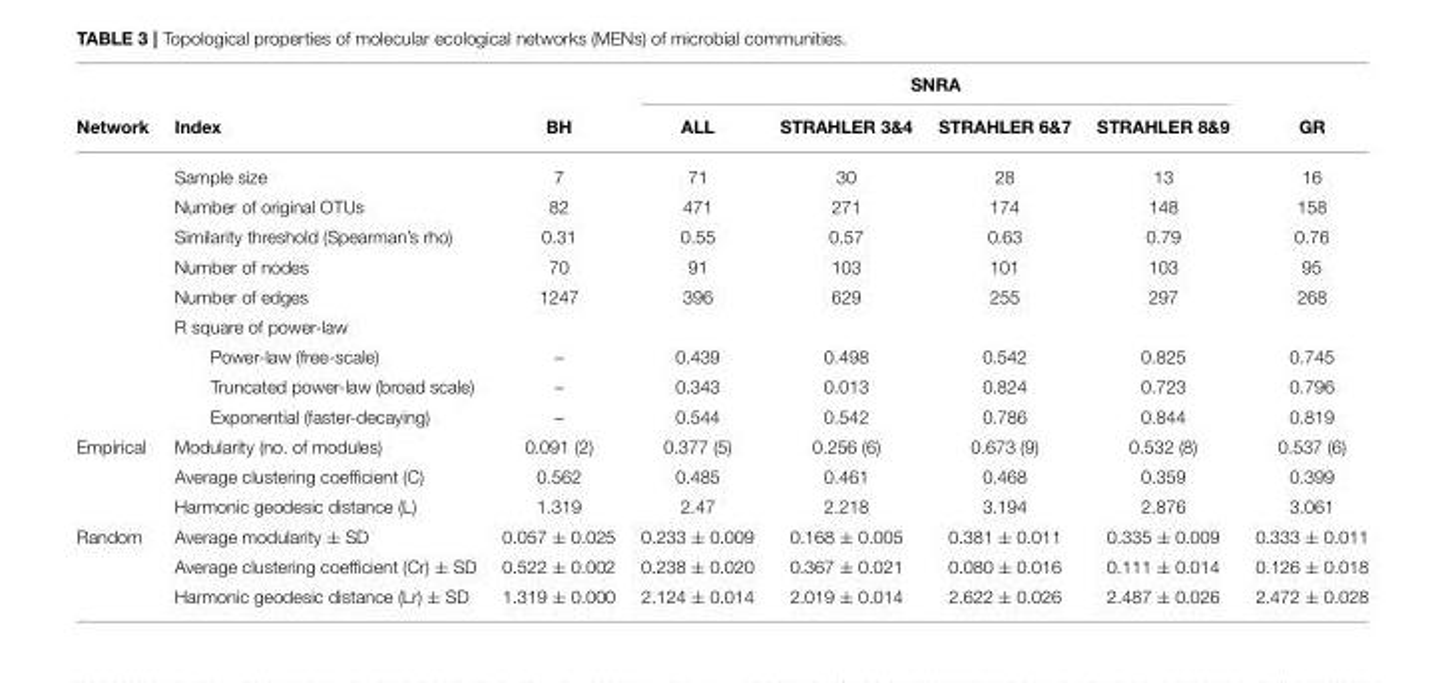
<table><thead><tr><td rowspan="2">Network</td><td rowspan="2">Index</td><td rowspan="2">BH</td><td colspan="4">SNRA</td><td rowspan="2">GR</td></tr><tr><td>ALL</td><td>STRAHLER 3&amp;4</td><td>STRAHLER 6&amp;7</td><td>STRAHLER 8&amp;9</td></tr></thead><tbody><tr><td></td><td>Sample size</td><td>7</td><td>71</td><td>30</td><td>28</td><td>13</td><td>16</td></tr><tr><td></td><td>Number of original OTUs</td><td>82</td><td>471</td><td>271</td><td>174</td><td>148</td><td>158</td></tr><tr><td></td><td>Similarity threshold (Spearman’s rho)</td><td>0.31</td><td>0.55</td><td>0.57</td><td>0.63</td><td>0.79</td><td>0.76</td></tr><tr><td></td><td>Number of nodes</td><td>70</td><td>91</td><td>103</td><td>101</td><td>103</td><td>95</td></tr><tr><td></td><td>Number of edges</td><td>1247</td><td>396</td><td>629</td><td>255</td><td>297</td><td>268</td></tr><tr><td></td><td>R square of power-law</td><td></td><td></td><td></td><td></td><td></td><td></td></tr><tr><td></td><td>Power-law (free-scale)</td><td>–</td><td>0.439</td><td>0.498</td><td>0.542</td><td>0.825</td><td>0.745</td></tr><tr><td></td><td>Truncated power-law (broad scale)</td><td>–</td><td>0.343</td><td>0.013</td><td>0.824</td><td>0.723</td><td>0.796</td></tr><tr><td></td><td>Exponential (faster-decaying)</td><td>–</td><td>0.544</td><td>0.542</td><td>0.786</td><td>0.844</td><td>0.819</td></tr><tr><td rowspan="3">Empirical</td><td>Modularity (no. of modules)</td><td>0.091 (2)</td><td>0.377 (5)</td><td>0.256 (6)</td><td>0.673 (9)</td><td>0.532 (8)</td><td>0.537 (6)</td></tr><tr><td>Average clustering coefficient (C)</td><td>0.562</td><td>0.485</td><td>0.461</td><td>0.468</td><td>0.359</td><td>0.399</td></tr><tr><td>Harmonic geodesic distance (L)</td><td>1.319</td><td>2.47</td><td>2.218</td><td>3.194</td><td>2.876</td><td>3.061</td></tr><tr><td rowspan="3">Random</td><td>Average modularity ± SD</td><td>0.057 ± 0.025</td><td>0.233 ± 0.009</td><td>0.168 ± 0.005</td><td>0.381 ± 0.011</td><td>0.335 ± 0.009</td><td>0.333 ± 0.011</td></tr><tr><td>Average clustering coefficient (Cr) ± SD</td><td>0.522 ± 0.002</td><td>0.238 ± 0.020</td><td>0.367 ± 0.021</td><td>0.080 ± 0.016</td><td>0.111 ± 0.014</td><td>0.126 ± 0.018</td></tr><tr><td>Harmonic geodesic distance (Lr) ± SD</td><td>1.319 ± 0.000</td><td>2.124 ± 0.014</td><td>2.019 ± 0.014</td><td>2.622 ± 0.026</td><td>2.487 ± 0.026</td><td>2.472 ± 0.028</td></tr></tbody></table>